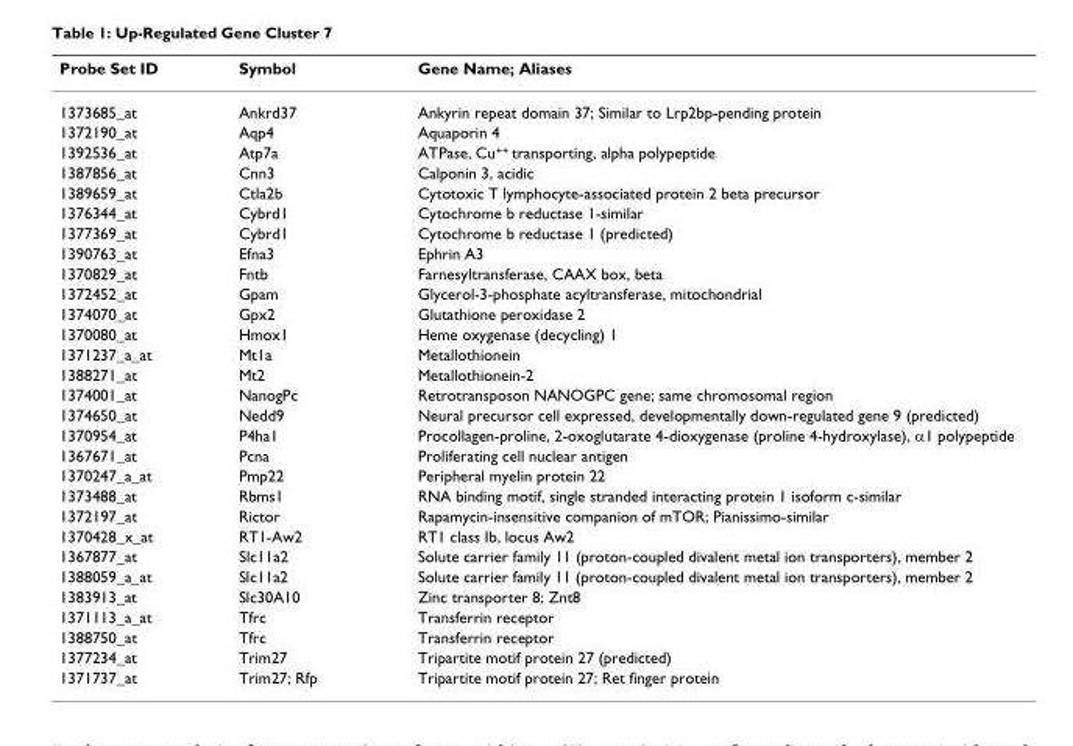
<table><thead><tr><td>Probe Set ID</td><td>Symbol</td><td>Gene Name; Aliases</td></tr></thead><tbody><tr><td>1373685_at</td><td>Ankrd37</td><td>Ankyrin repeat domain 37; Similar to Lrp2bp-pending protein</td></tr><tr><td>1372190_at</td><td>Aqp4</td><td>Aquaporin 4</td></tr><tr><td>1392536_at</td><td>Atp7a</td><td>ATPase, Cu<sup>++</sup> transporting, alpha polypeptide</td></tr><tr><td>1387856_at</td><td>Cnn3</td><td>Calponin 3, acidic</td></tr><tr><td>1389659_at</td><td>Ctla2b</td><td>Cytotoxic T lymphocyte-associated protein 2 beta precursor</td></tr><tr><td>1376344_at</td><td>Cybrd1</td><td>Cytochrome b reductase 1-similar</td></tr><tr><td>1377369_at</td><td>Cybrd1</td><td>Cytochrome b reductase 1 (predicted)</td></tr><tr><td>1390763_at</td><td>Efna3</td><td>Ephrin A3</td></tr><tr><td>1370829_at</td><td>Fntb</td><td>Farnesyltransferase, CAAX box, beta</td></tr><tr><td>1372452_at</td><td>Gpam</td><td>Glycerol-3-phosphate acyltransferase, mitochondrial</td></tr><tr><td>1374070_at</td><td>Gpx2</td><td>Glutathione peroxidase 2</td></tr><tr><td>1370080_at</td><td>Hmox1</td><td>Heme oxygenase (decycling) 1</td></tr><tr><td>1371237_a_at</td><td>Mt1a</td><td>Metallothionein</td></tr><tr><td>1388271_at</td><td>Mt2</td><td>Metallothionein-2</td></tr><tr><td>1374001_at</td><td>NanogPc</td><td>Retrotransposon NANOGPC gene; same chromosomal region</td></tr><tr><td>1374650_at</td><td>Nedd9</td><td>Neural precursor cell expressed, developmentally down-regulated gene 9 (predicted)</td></tr><tr><td>1370954_at</td><td>P4ha1</td><td>Procollagen-proline, 2-oxoglutarate 4-dioxygenase (proline 4-hydroxylase), α1 polypeptide</td></tr><tr><td>1367671_at</td><td>Pcna</td><td>Proliferating cell nuclear antigen</td></tr><tr><td>1370247_a_at</td><td>Pmp22</td><td>Peripheral myelin protein 22</td></tr><tr><td>1373488_at</td><td>Rbms1</td><td>RNA binding motif, single stranded interacting protein 1 isoform c-similar</td></tr><tr><td>1372197_at</td><td>Rictor</td><td>Rapamycin-insensitive companion of mTOR; Pianissimo-similar</td></tr><tr><td>1370428_x_at</td><td>RT1-Aw2</td><td>RT1 class Ib, locus Aw2</td></tr><tr><td>1367877_at</td><td>Slc11a2</td><td>Solute carrier family 11 (proton-coupled divalent metal ion transporters), member 2</td></tr><tr><td>1388059_a_at</td><td>Slc11a2</td><td>Solute carrier family 11 (proton-coupled divalent metal ion transporters), member 2</td></tr><tr><td>1383913_at</td><td>Slc30A10</td><td>Zinc transporter 8; Znt8</td></tr><tr><td>1371113_a_at</td><td>Tfrc</td><td>Transferrin receptor</td></tr><tr><td>1388750_at</td><td>Tfrc</td><td>Transferrin receptor</td></tr><tr><td>1377234_at</td><td>Trim27</td><td>Tripartite motif protein 27 (predicted)</td></tr><tr><td>1371737_at</td><td>Trim27; Rfp</td><td>Tripartite motif protein 27; Ret finger protein</td></tr></tbody></table>